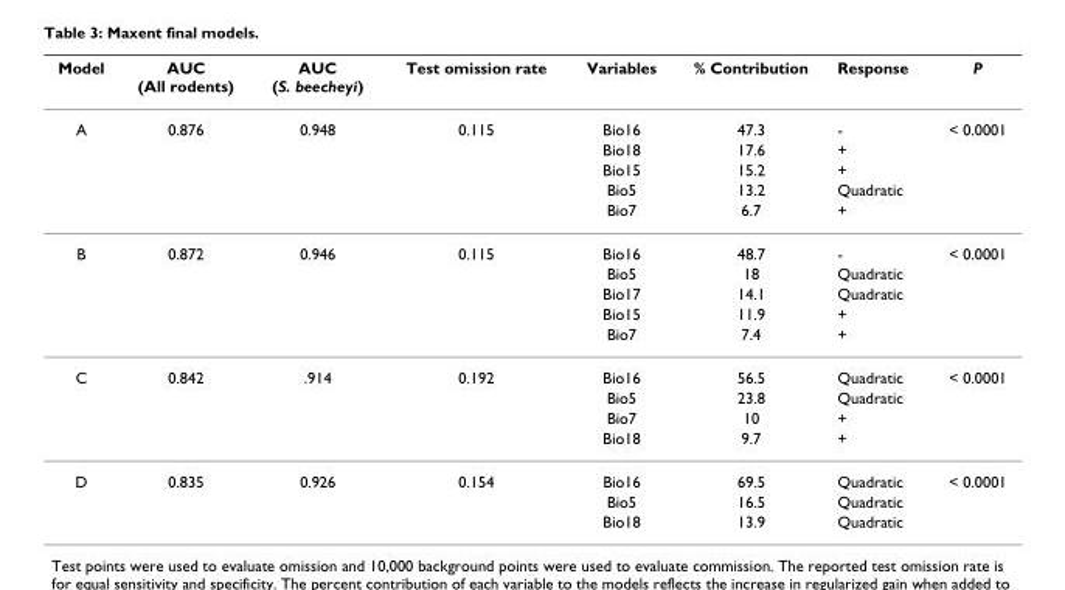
<table><thead><tr><td>Model</td><td>AUC (All rodents)</td><td>AUC (S. beecheyi)</td><td>Test omission rate</td><td>Variables</td><td>% Contribution</td><td>Response</td><td>P</td></tr></thead><tbody><tr><td rowspan="5">A</td><td>0.876</td><td>0.948</td><td>0.115</td><td>Bio16</td><td>47.3</td><td>-</td><td>&lt; 0.0001</td></tr><tr><td></td><td></td><td></td><td>Bio18</td><td>17.6</td><td>+</td><td></td></tr><tr><td></td><td></td><td></td><td>Bio15</td><td>15.2</td><td>+</td><td></td></tr><tr><td></td><td></td><td></td><td>Bio5</td><td>13.2</td><td>Quadratic</td><td></td></tr><tr><td></td><td></td><td></td><td>Bio7</td><td>6.7</td><td>+</td><td></td></tr><tr><td rowspan="5">B</td><td>0.872</td><td>0.946</td><td>0.115</td><td>Bio16</td><td>48.7</td><td>-</td><td>&lt; 0.0001</td></tr><tr><td></td><td></td><td></td><td>Bio5</td><td>18</td><td>Quadratic</td><td></td></tr><tr><td></td><td></td><td></td><td>Bio17</td><td>14.1</td><td>Quadratic</td><td></td></tr><tr><td></td><td></td><td></td><td>Bio15</td><td>11.9</td><td>+</td><td></td></tr><tr><td></td><td></td><td></td><td>Bio7</td><td>7.4</td><td>+</td><td></td></tr><tr><td rowspan="4">C</td><td>0.842</td><td>.914</td><td>0.192</td><td>Bio16</td><td>56.5</td><td>Quadratic</td><td>&lt; 0.0001</td></tr><tr><td></td><td></td><td></td><td>Bio5</td><td>23.8</td><td>Quadratic</td><td></td></tr><tr><td></td><td></td><td></td><td>Bio7</td><td>10</td><td>+</td><td></td></tr><tr><td></td><td></td><td></td><td>Bio18</td><td>9.7</td><td>+</td><td></td></tr><tr><td rowspan="3">D</td><td>0.835</td><td>0.926</td><td>0.154</td><td>Bio16</td><td>69.5</td><td>Quadratic</td><td>&lt; 0.0001</td></tr><tr><td></td><td></td><td></td><td>Bio5</td><td>16.5</td><td>Quadratic</td><td></td></tr><tr><td></td><td></td><td></td><td>Bio18</td><td>13.9</td><td>Quadratic</td><td></td></tr></tbody></table>